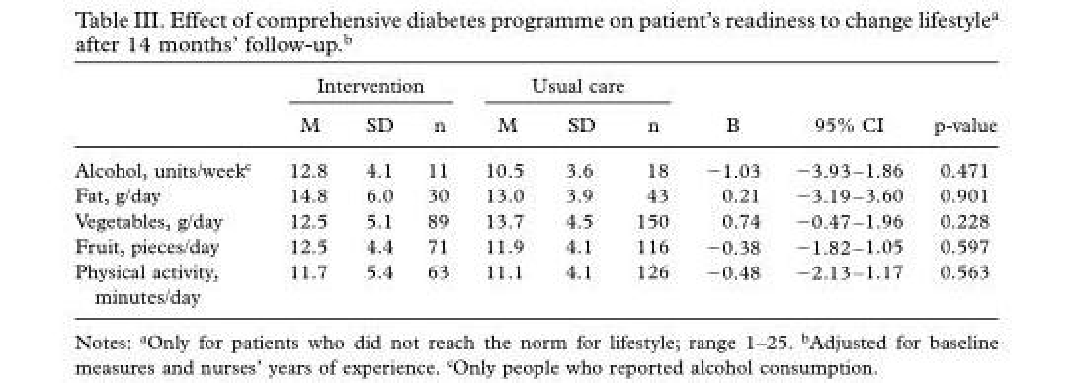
<table><thead><tr><td rowspan="2"></td><td colspan="3">Intervention</td><td colspan="3">Usual care</td><td rowspan="2">B</td><td rowspan="2">95% CI</td><td rowspan="2">p-value</td></tr><tr><td>M</td><td>SD</td><td>n</td><td>M</td><td>SD</td><td>n</td></tr></thead><tbody><tr><td>Alcohol, units/week <sup>c</sup></td><td>12.8</td><td>4.1</td><td>11</td><td>10.5</td><td>3.6</td><td>18</td><td>−1.03</td><td>−3.93 – 1.86</td><td>0.471</td></tr><tr><td>Fat, g/day</td><td>14.8</td><td>6.0</td><td>30</td><td>13.0</td><td>3.9</td><td>43</td><td>0.21</td><td>−3.19 – 3.60</td><td>0.901</td></tr><tr><td>Vegetables, g/day</td><td>12.5</td><td>5.1</td><td>89</td><td>13.7</td><td>4.5</td><td>150</td><td>0.74</td><td>−0.47 – 1.96</td><td>0.228</td></tr><tr><td>Fruit, pieces/day</td><td>12.5</td><td>4.4</td><td>71</td><td>11.9</td><td>4.1</td><td>116</td><td>−0.38</td><td>−1.82 – 1.05</td><td>0.597</td></tr><tr><td>Physical activity, minutes/day</td><td>11.7</td><td>5.4</td><td>63</td><td>11.1</td><td>4.1</td><td>126</td><td>−0.48</td><td>−2.13 – 1.17</td><td>0.563</td></tr></tbody></table>